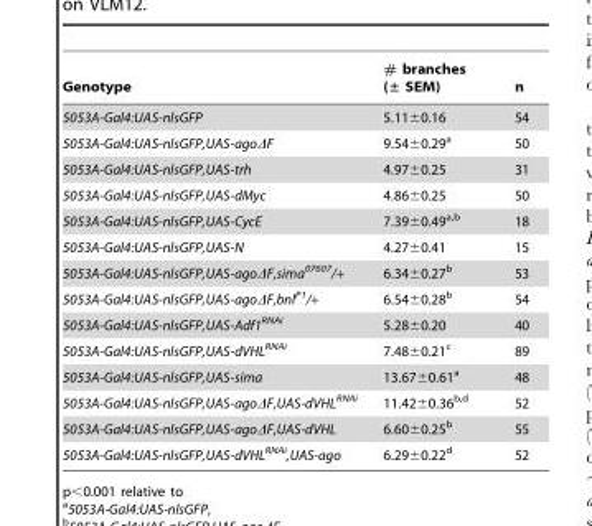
<table><thead><tr><td>Genotype</td><td># branches (± SEM)</td><td>n</td></tr></thead><tbody><tr><td>5053A-Gal4:UAS-nlsGFP</td><td>5.11±0.16</td><td>54</td></tr><tr><td>5053A-Gal4:UAS-nlsGFP,UAS-agoΔF</td><td>9.54±0.29<sup>a</sup></td><td>50</td></tr><tr><td>5053A-Gal4:UAS-nlsGFP,UAS-trh</td><td>4.97±0.25</td><td>31</td></tr><tr><td>5053A-Gal4:UAS-nlsGFP,UAS-dMyc</td><td>4.86±0.25</td><td>50</td></tr><tr><td>5053A-Gal4:UAS-nlsGFP,UAS-CycE</td><td>7.39±0.49a,b</td><td>18</td></tr><tr><td>5053A-Gal4:UAS-nlsGFP,UAS-N</td><td>4.27±0.41</td><td>15</td></tr><tr><td>5053A-Gal4:UAS-nlsGFP,UAS-agoΔF,sima<sup>07607</sup>/+</td><td>6.34±0.27<sup>b</sup></td><td>53</td></tr><tr><td>5053A-Gal4:UAS-nlsGFP,UAS-agoΔF,bnl<sup>P1</sup>/+</td><td>6.54±0.28<sup>b</sup></td><td>54</td></tr><tr><td>5053A-Gal4:UAS-nlsGFP,UAS-Adf1<sup>RNAi</sup></td><td>5.28±0.20</td><td>40</td></tr><tr><td>5053A-Gal4:UAS-nlsGFP,UAS-dVHL<sup>RNAi</sup></td><td>7.48±0.21<sup>c</sup></td><td>89</td></tr><tr><td>5053A-Gal4:UAS-nlsGFP,UAS-sima</td><td>13.67±0.61<sup>a</sup></td><td>48</td></tr><tr><td>5053A-Gal4:UAS-nlsGFP,UAS-agoΔF,UAS-dVHL<sup>RNAi</sup></td><td>11.42±0.36b,d</td><td>52</td></tr><tr><td>5053A-Gal4:UAS-nlsGFP,UAS-agoΔF,UAS-dVHL</td><td>6.60±0.25<sup>b</sup></td><td>55</td></tr><tr><td>5053A-Gal4:UAS-nlsGFP,UAS-dVHL<sup>RNAi</sup>,UAS-ago</td><td>6.29±0.22<sup>d</sup></td><td>52</td></tr></tbody></table>